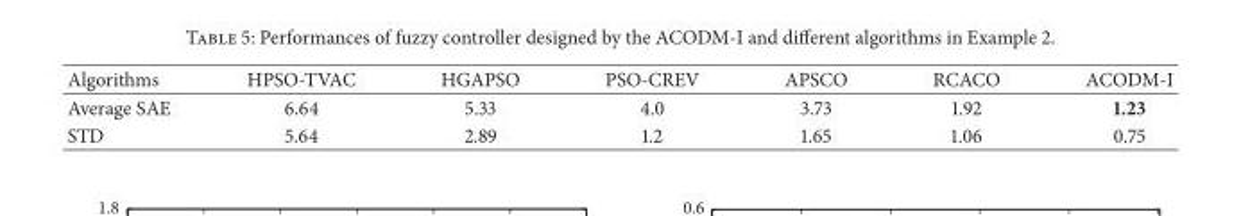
<table><thead><tr><td>Algorithms</td><td>HPSO-TVAC</td><td>HGAPSO</td><td>PSO-CREV</td><td>APSCO</td><td>RCACO</td><td>ACODM-I</td></tr></thead><tbody><tr><td>Average SAE</td><td>6.64</td><td>5.33</td><td>4.0</td><td>3.73</td><td>1.92</td><td>1.23</td></tr><tr><td>STD</td><td>5.64</td><td>2.89</td><td>1.2</td><td>1.65</td><td>1.06</td><td>0.75</td></tr></tbody></table>